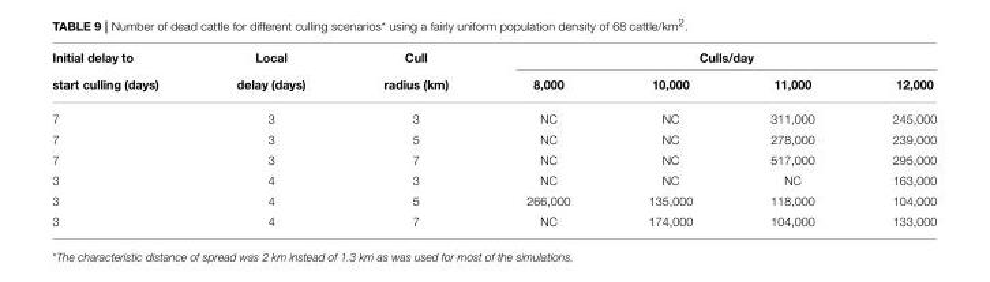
<table><thead><tr><td rowspan="2">Initial delay to start culling (days)</td><td rowspan="2">Local delay (days)</td><td rowspan="2">Cull radius (km)</td><td colspan="4">Culls/day</td></tr><tr><td>8,000</td><td>10,000</td><td>11,000</td><td>12,000</td></tr></thead><tbody><tr><td>7</td><td>3</td><td>3</td><td>NC</td><td>NC</td><td>311,000</td><td>245,000</td></tr><tr><td>7</td><td>3</td><td>5</td><td>NC</td><td>NC</td><td>278,000</td><td>239,000</td></tr><tr><td>7</td><td>3</td><td>7</td><td>NC</td><td>NC</td><td>517,000</td><td>295,000</td></tr><tr><td>3</td><td>4</td><td>3</td><td>NC</td><td>NC</td><td>NC</td><td>163,000</td></tr><tr><td>3</td><td>4</td><td>5</td><td>266,000</td><td>135,000</td><td>118,000</td><td>104,000</td></tr><tr><td>3</td><td>4</td><td>7</td><td>NC</td><td>174,000</td><td>104,000</td><td>133,000</td></tr></tbody></table>